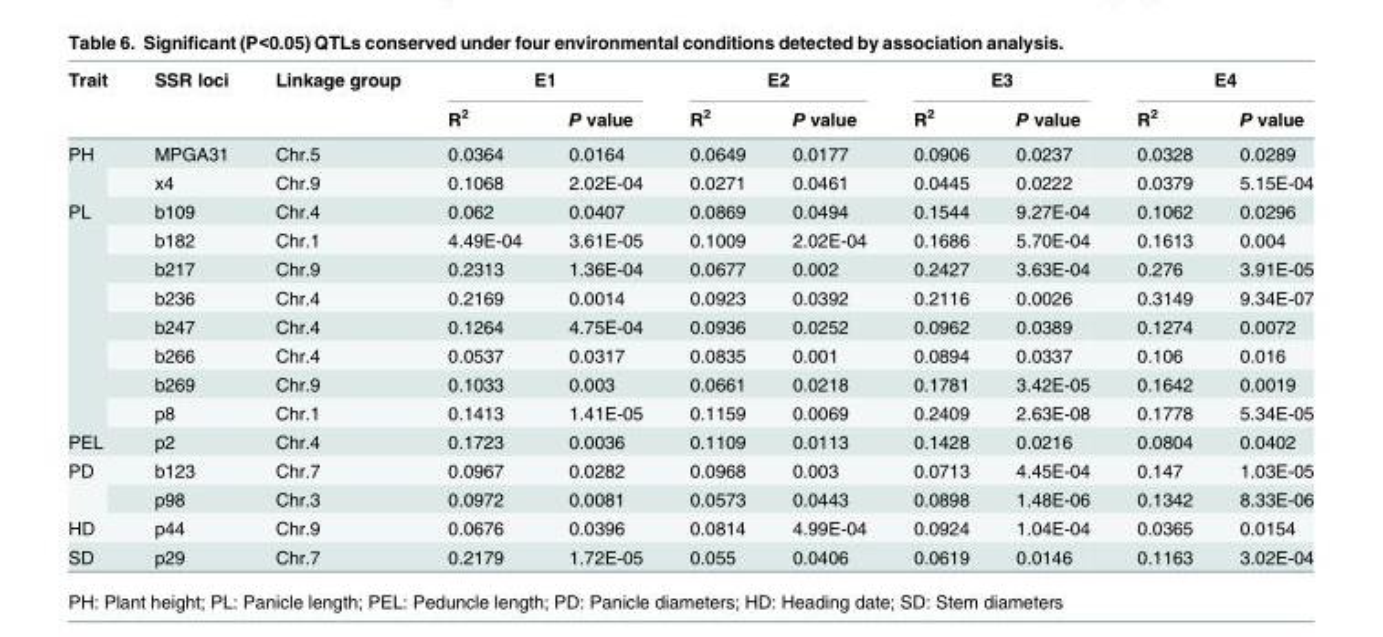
<table><thead><tr><td rowspan="2">Trait</td><td rowspan="2">SSR loci</td><td rowspan="2">Linkage group</td><td colspan="2">E1</td><td colspan="2">E2</td><td colspan="2">E3</td><td colspan="2">E4</td></tr><tr><td>R<sup>2</sup></td><td>P value</td><td>R<sup>2</sup></td><td>P value</td><td>R<sup>2</sup></td><td>P value</td><td>R<sup>2</sup></td><td>P value</td></tr></thead><tbody><tr><td rowspan="2">PH</td><td>MPGA31</td><td>Chr.5</td><td>0.0364</td><td>0.0164</td><td>0.0649</td><td>0.0177</td><td>0.0906</td><td>0.0237</td><td>0.0328</td><td>0.0289</td></tr><tr><td>x4</td><td>Chr.9</td><td>0.1068</td><td>2.02E-04</td><td>0.0271</td><td>0.0461</td><td>0.0445</td><td>0.0222</td><td>0.0379</td><td>5.15E-04</td></tr><tr><td rowspan="8">PL</td><td>b109</td><td>Chr.4</td><td>0.062</td><td>0.0407</td><td>0.0869</td><td>0.0494</td><td>0.1544</td><td>9.27E-04</td><td>0.1062</td><td>0.0296</td></tr><tr><td>b182</td><td>Chr.1</td><td>4.49E-04</td><td>3.61E-05</td><td>0.1009</td><td>2.02E-04</td><td>0.1686</td><td>5.70E-04</td><td>0.1613</td><td>0.004</td></tr><tr><td>b217</td><td>Chr.9</td><td>0.2313</td><td>1.36E-04</td><td>0.0677</td><td>0.002</td><td>0.2427</td><td>3.63E-04</td><td>0.276</td><td>3.91E-05</td></tr><tr><td>b236</td><td>Chr.4</td><td>0.2169</td><td>0.0014</td><td>0.0923</td><td>0.0392</td><td>0.2116</td><td>0.0026</td><td>0.3149</td><td>9.34E-07</td></tr><tr><td>b247</td><td>Chr.4</td><td>0.1264</td><td>4.75E-04</td><td>0.0936</td><td>0.0252</td><td>0.0962</td><td>0.0389</td><td>0.1274</td><td>0.0072</td></tr><tr><td>b266</td><td>Chr.4</td><td>0.0537</td><td>0.0317</td><td>0.0835</td><td>0.001</td><td>0.0894</td><td>0.0337</td><td>0.106</td><td>0.016</td></tr><tr><td>b269</td><td>Chr.9</td><td>0.1033</td><td>0.003</td><td>0.0661</td><td>0.0218</td><td>0.1781</td><td>3.42E-05</td><td>0.1642</td><td>0.0019</td></tr><tr><td>p8</td><td>Chr.1</td><td>0.1413</td><td>1.41E-05</td><td>0.1159</td><td>0.0069</td><td>0.2409</td><td>2.63E-08</td><td>0.1778</td><td>5.34E-05</td></tr><tr><td>PEL</td><td>p2</td><td>Chr.4</td><td>0.1723</td><td>0.0036</td><td>0.1109</td><td>0.0113</td><td>0.1428</td><td>0.0216</td><td>0.0804</td><td>0.0402</td></tr><tr><td rowspan="2">PD</td><td>b123</td><td>Chr.7</td><td>0.0967</td><td>0.0282</td><td>0.0968</td><td>0.003</td><td>0.0713</td><td>4.45E-04</td><td>0.147</td><td>1.03E-05</td></tr><tr><td>p98</td><td>Chr.3</td><td>0.0972</td><td>0.0081</td><td>0.0573</td><td>0.0443</td><td>0.0898</td><td>1.48E-06</td><td>0.1342</td><td>8.33E-06</td></tr><tr><td>HD</td><td>p44</td><td>Chr.9</td><td>0.0676</td><td>0.0396</td><td>0.0814</td><td>4.99E-04</td><td>0.0924</td><td>1.04E-04</td><td>0.0365</td><td>0.0154</td></tr><tr><td>SD</td><td>p29</td><td>Chr.7</td><td>0.2179</td><td>1.72E-05</td><td>0.055</td><td>0.0406</td><td>0.0619</td><td>0.0146</td><td>0.1163</td><td>3.02E-04</td></tr></tbody></table>